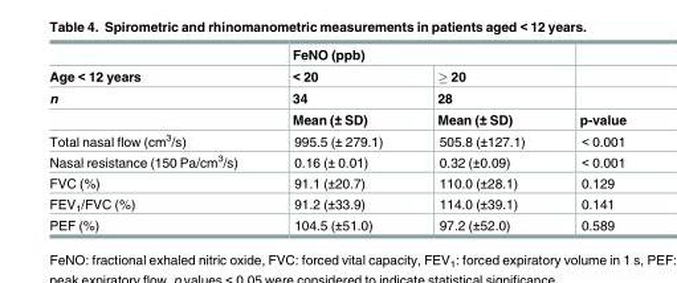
<table><thead><tr><td rowspan="4">Age &lt; 12 years n</td><td colspan="2">FeNO (ppb)</td><td rowspan="4">p-value</td></tr><tr><td rowspan="3">&lt; 20 34 Mean (± SD)</td><td rowspan="3">≥ 20 28 Mean (± SD)</td></tr><tr></tr><tr></tr></thead><tbody><tr><td>Total nasal flow (cm<sup>3</sup>/s)</td><td>995.5 (± 279.1)</td><td>505.8 (±127.1)</td><td>&lt; 0.001</td></tr><tr><td>Nasal resistance (150 Pa/cm<sup>3</sup>/s)</td><td>0.16 (± 0.01)</td><td>0.32 (±0.09)</td><td>&lt; 0.001</td></tr><tr><td>FVC (%)</td><td>91.1 (±20.7)</td><td>110.0 (±28.1)</td><td>0.129</td></tr><tr><td>FEV<sub>1</sub>/FVC (%)</td><td>91.2 (±33.9)</td><td>114.0 (±39.1)</td><td>0.141</td></tr><tr><td>PEF (%)</td><td>104.5 (±51.0)</td><td>97.2 (±52.0)</td><td>0.589</td></tr></tbody></table>